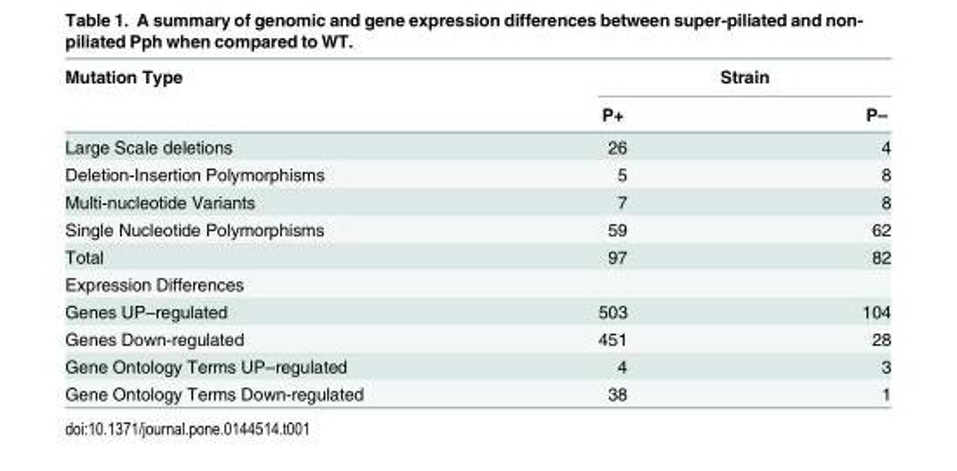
<table><thead><tr><td rowspan="2">Mutation Type</td><td colspan="2">Strain</td></tr><tr><td>P+</td><td>P–</td></tr></thead><tbody><tr><td>Large Scale deletions</td><td>26</td><td>4</td></tr><tr><td>Deletion-Insertion Polymorphisms</td><td>5</td><td>8</td></tr><tr><td>Multi-nucleotide Variants</td><td>7</td><td>8</td></tr><tr><td>Single Nucleotide Polymorphisms</td><td>59</td><td>62</td></tr><tr><td>Total</td><td>97</td><td>82</td></tr><tr><td colspan="3">Expression Differences</td></tr><tr><td>Genes UP–regulated</td><td>503</td><td>104</td></tr><tr><td>Genes Down-regulated</td><td>451</td><td>28</td></tr><tr><td>Gene Ontology Terms UP–regulated</td><td>4</td><td>3</td></tr><tr><td>Gene Ontology Terms Down-regulated</td><td>38</td><td>1</td></tr></tbody></table>